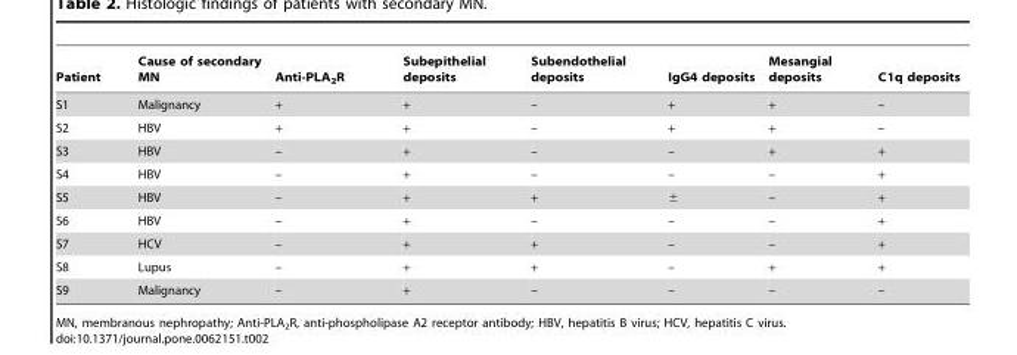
<table><thead><tr><td>Patient</td><td>Cause of secondary MN</td><td>Anti-PLA<sub>2</sub>R</td><td>Subepithelial deposits</td><td>Subendothelial deposits</td><td>IgG4 deposits</td><td>Mesangial deposits</td><td>C1q deposits</td></tr></thead><tbody><tr><td>S1</td><td>Malignancy</td><td>+</td><td>+</td><td>–</td><td>+</td><td>+</td><td>–</td></tr><tr><td>S2</td><td>HBV</td><td>+</td><td>+</td><td>–</td><td>+</td><td>+</td><td>–</td></tr><tr><td>S3</td><td>HBV</td><td>–</td><td>+</td><td>–</td><td>–</td><td>+</td><td>+</td></tr><tr><td>S4</td><td>HBV</td><td>–</td><td>+</td><td>–</td><td>–</td><td>–</td><td>+</td></tr><tr><td>S5</td><td>HBV</td><td>–</td><td>+</td><td>+</td><td>±</td><td>–</td><td>+</td></tr><tr><td>S6</td><td>HBV</td><td>–</td><td>+</td><td>–</td><td>–</td><td>–</td><td>+</td></tr><tr><td>S7</td><td>HCV</td><td>–</td><td>+</td><td>+</td><td>–</td><td>–</td><td>+</td></tr><tr><td>S8</td><td>Lupus</td><td>–</td><td>+</td><td>+</td><td>–</td><td>+</td><td>+</td></tr><tr><td>S9</td><td>Malignancy</td><td>–</td><td>+</td><td>–</td><td>–</td><td>–</td><td>–</td></tr></tbody></table>